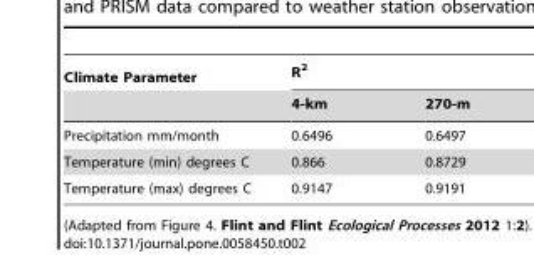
<table><thead><tr><td rowspan="2">Climate Parameter</td><td colspan="2">R<sup>2</sup></td></tr><tr><td>4-km</td><td>270-m</td></tr></thead><tbody><tr><td>Precipitation mm/month</td><td>0.6496</td><td>0.6497</td></tr><tr><td>Temperature (min) degrees C</td><td>0.866</td><td>0.8729</td></tr><tr><td>Temperature (max) degrees C</td><td>0.9147</td><td>0.9191</td></tr></tbody></table>